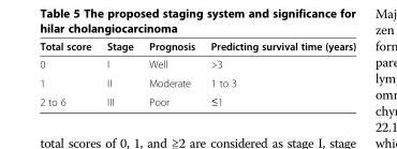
<table><thead><tr><td>Total score</td><td>Stage</td><td>Prognosis</td><td>Predicting survival time (years)</td></tr></thead><tbody><tr><td>0</td><td>I</td><td>Well</td><td>&gt;3</td></tr><tr><td>1</td><td>II</td><td>Moderate</td><td>1 to 3</td></tr><tr><td>2 to 6</td><td>III</td><td>Poor</td><td>≤1</td></tr></tbody></table>